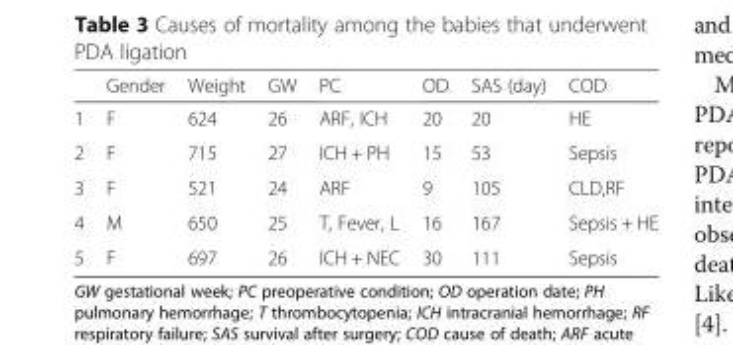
<table><thead><tr><td></td><td>Gender</td><td>Weight</td><td>GW</td><td>PC</td><td>OD</td><td>SAS (day)</td><td>COD</td></tr></thead><tbody><tr><td>1</td><td>F</td><td>624</td><td>26</td><td>ARF, ICH</td><td>20</td><td>20</td><td>HE</td></tr><tr><td>2</td><td>F</td><td>715</td><td>27</td><td>ICH + PH</td><td>15</td><td>53</td><td>Sepsis</td></tr><tr><td>3</td><td>F</td><td>521</td><td>24</td><td>ARF</td><td>9</td><td>105</td><td>CLD,RF</td></tr><tr><td>4</td><td>M</td><td>650</td><td>25</td><td>T, Fever, L</td><td>16</td><td>167</td><td>Sepsis + HE</td></tr><tr><td>5</td><td>F</td><td>697</td><td>26</td><td>ICH + NEC</td><td>30</td><td>111</td><td>Sepsis</td></tr></tbody></table>